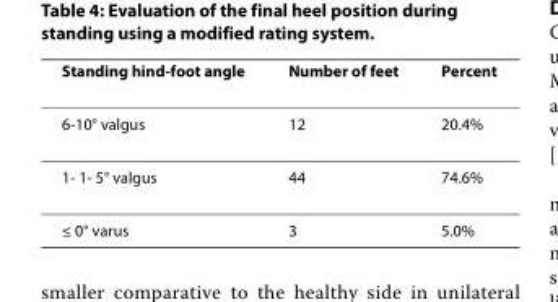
<table><thead><tr><td>Standing hind-foot angle</td><td>Number of feet</td><td>Percent</td></tr></thead><tbody><tr><td>6-10° valgus</td><td>12</td><td>20.4%</td></tr><tr><td>1- 1- 5° valgus</td><td>44</td><td>74.6%</td></tr><tr><td>≤ 0° varus</td><td>3</td><td>5.0%</td></tr></tbody></table>